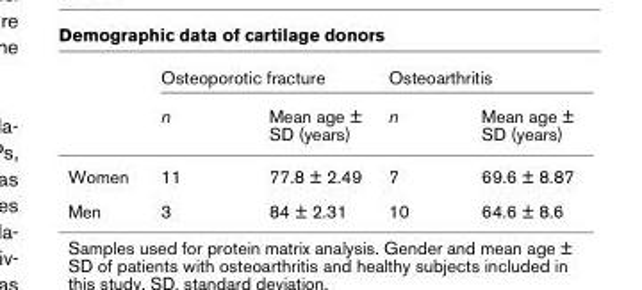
<table><thead><tr><td rowspan="2"></td><td colspan="2">Osteoporotic fracture</td><td colspan="2">Osteoarthritis</td></tr><tr><td>n</td><td>Mean age ± SD (years)</td><td>n</td><td>Mean age ± SD (years)</td></tr></thead><tbody><tr><td>Women</td><td>11</td><td>77.8 ± 2.49</td><td>7</td><td>69.6 ± 8.87</td></tr><tr><td>Men</td><td>3</td><td>84 ± 2.31</td><td>10</td><td>64.6 ± 8.6</td></tr></tbody></table>